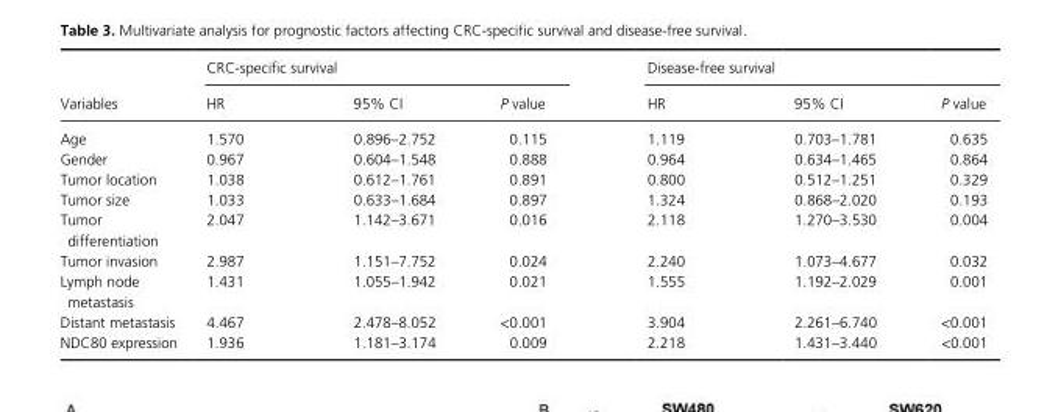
<table><thead><tr><td rowspan="2">Variables</td><td colspan="3">CRC- specific survival</td><td colspan="3">Disease- free survival</td></tr><tr><td>HR</td><td>95% CI</td><td>P value</td><td>HR</td><td>95% CI</td><td>P value</td></tr></thead><tbody><tr><td>Age</td><td>1.570</td><td>0.896–2.752</td><td>0.115</td><td>1.119</td><td>0.703–1.781</td><td>0.635</td></tr><tr><td>Gender</td><td>0.967</td><td>0.604–1.548</td><td>0.888</td><td>0.964</td><td>0.634–1.465</td><td>0.864</td></tr><tr><td>Tumor location</td><td>1.038</td><td>0.612–1.761</td><td>0.891</td><td>0.800</td><td>0.512–1.251</td><td>0.329</td></tr><tr><td>Tumor size</td><td>1.033</td><td>0.633–1.684</td><td>0.897</td><td>1.324</td><td>0.868–2.020</td><td>0.193</td></tr><tr><td>Tumor differentiation</td><td>2.047</td><td>1.142–3.671</td><td>0.016</td><td>2.118</td><td>1.270–3.530</td><td>0.004</td></tr><tr><td>Tumor invasion</td><td>2.987</td><td>1.151–7.752</td><td>0.024</td><td>2.240</td><td>1.073–4.677</td><td>0.032</td></tr><tr><td>Lymph node metastasis</td><td>1.431</td><td>1.055–1.942</td><td>0.021</td><td>1.555</td><td>1.192–2.029</td><td>0.001</td></tr><tr><td>Distant metastasis</td><td>4.467</td><td>2.478–8.052</td><td>&lt;0.001</td><td>3.904</td><td>2.261–6.740</td><td>&lt;0.001</td></tr><tr><td>NDC80 expression</td><td>1.936</td><td>1.181–3.174</td><td>0.009</td><td>2.218</td><td>1.431–3.440</td><td>&lt;0.001</td></tr></tbody></table>